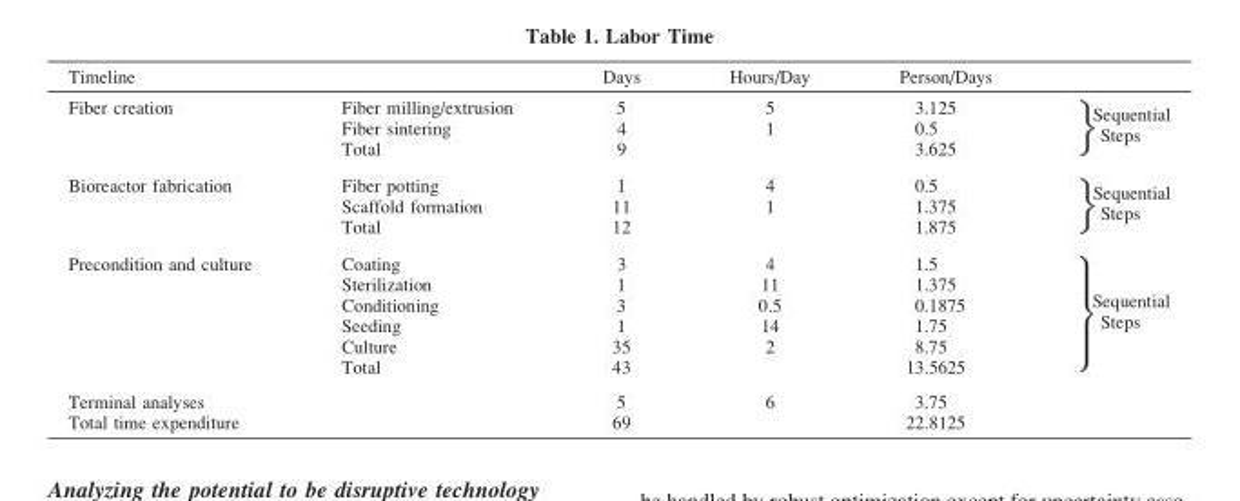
<table><thead><tr><td>Timeline</td><td></td><td>Days</td><td>Hours/Day</td><td>Person/Days</td><td></td></tr></thead><tbody><tr><td rowspan="3">Fiber creation</td><td>Fiber milling/extrusion</td><td>5</td><td>5</td><td>3.125</td><td rowspan="3">Sequential Steps</td></tr><tr><td>Fiber sintering</td><td>4</td><td>1</td><td>0.5</td></tr><tr><td>Total</td><td>9</td><td></td><td>3.625</td></tr><tr><td rowspan="3">Bioreactor fabrication</td><td>Fiber potting</td><td>1</td><td>4</td><td>0.5</td><td rowspan="3">Sequential Steps</td></tr><tr><td>Scaffold formation</td><td>11</td><td>1</td><td>1.375</td></tr><tr><td>Total</td><td>12</td><td></td><td>1.875</td></tr><tr><td rowspan="6">Precondition and culture</td><td>Coating</td><td>3</td><td>4</td><td>1.5</td><td rowspan="6">Sequential Steps</td></tr><tr><td>Sterilization</td><td>1</td><td>11</td><td>1.375</td></tr><tr><td>Conditioning</td><td>3</td><td>0.5</td><td>0.1875</td></tr><tr><td>Seeding</td><td>1</td><td>14</td><td>1.75</td></tr><tr><td>Culture</td><td>35</td><td>2</td><td>8.75</td></tr><tr><td>Total</td><td>43</td><td></td><td>13.5625</td></tr><tr><td>Terminal analyses</td><td></td><td>5</td><td>6</td><td>3.75</td><td></td></tr><tr><td>Total time expenditure</td><td></td><td>69</td><td></td><td>22.8125</td><td></td></tr></tbody></table>